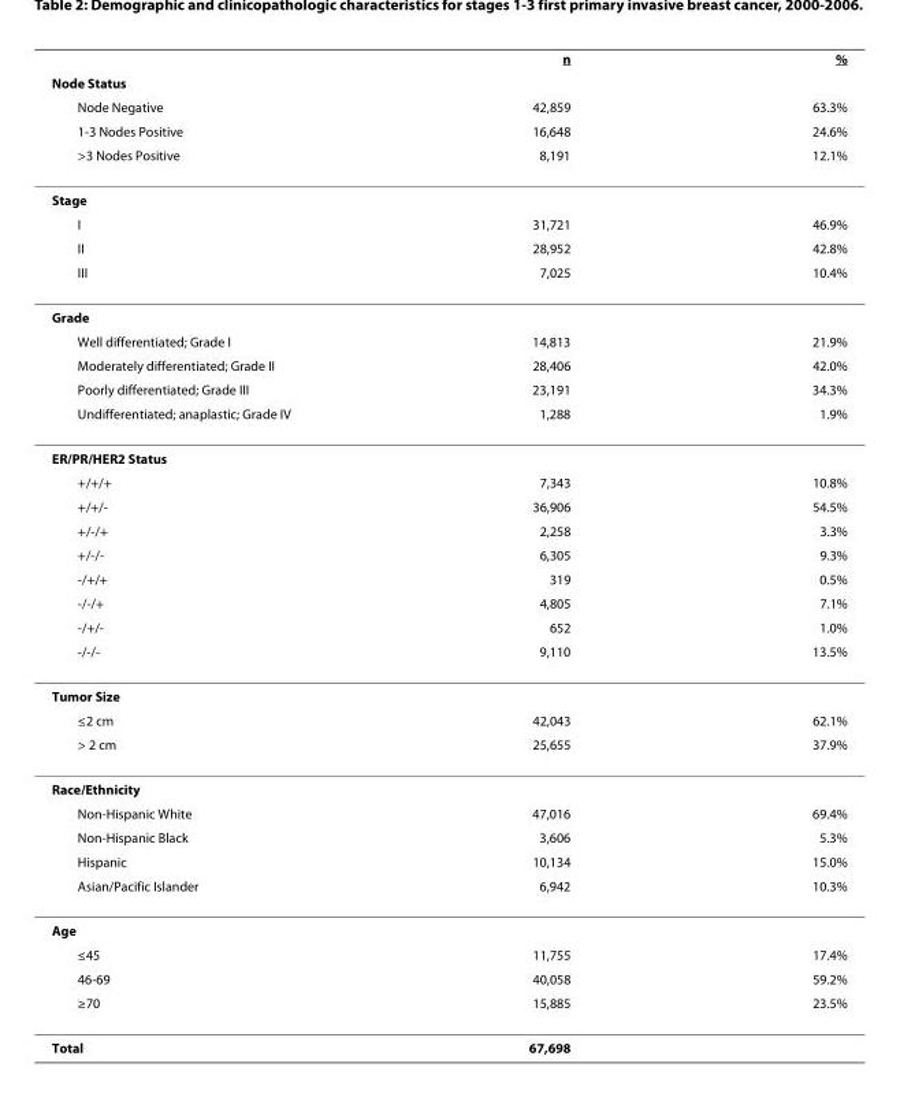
<table><thead><tr><td rowspan="5">Node Status Node Negative 1-3 Nodes Positive &gt;3 Nodes Positive</td><td rowspan="5">n 42,859 16,648 8,191</td><td rowspan="5">% 63.3% 24.6% 12.1%</td></tr><tr></tr><tr></tr><tr></tr><tr></tr></thead><tbody><tr><td colspan="3">Stage</td></tr><tr><td>I</td><td>31,721</td><td>46.9%</td></tr><tr><td>II</td><td>28,952</td><td>42.8%</td></tr><tr><td>III</td><td>7,025</td><td>10.4%</td></tr><tr><td colspan="3">Grade</td></tr><tr><td>Well differentiated; Grade I</td><td>14,813</td><td>21.9%</td></tr><tr><td>Moderately differentiated; Grade II</td><td>28,406</td><td>42.0%</td></tr><tr><td>Poorly differentiated; Grade III</td><td>23,191</td><td>34.3%</td></tr><tr><td>Undifferentiated; anaplastic; Grade IV</td><td>1,288</td><td>1.9%</td></tr><tr><td colspan="3">ER/PR/HER2 Status</td></tr><tr><td>+/+/+</td><td>7,343</td><td>10.8%</td></tr><tr><td>+/+/-</td><td>36,906</td><td>54.5%</td></tr><tr><td>+/-/+</td><td>2,258</td><td>3.3%</td></tr><tr><td>+/-/-</td><td>6,305</td><td>9.3%</td></tr><tr><td>-/+/+</td><td>319</td><td>0.5%</td></tr><tr><td>-/-/+</td><td>4,805</td><td>7.1%</td></tr><tr><td>-/+/-</td><td>652</td><td>1.0%</td></tr><tr><td>-/-/-</td><td>9,110</td><td>13.5%</td></tr><tr><td colspan="3">Tumor Size</td></tr><tr><td>≤2 cm</td><td>42,043</td><td>62.1%</td></tr><tr><td>&gt; 2 cm</td><td>25,655</td><td>37.9%</td></tr><tr><td colspan="3">Race/Ethnicity</td></tr><tr><td>Non-Hispanic White</td><td>47,016</td><td>69.4%</td></tr><tr><td>Non-Hispanic Black</td><td>3,606</td><td>5.3%</td></tr><tr><td>Hispanic</td><td>10,134</td><td>15.0%</td></tr><tr><td>Asian/Pacific Islander</td><td>6,942</td><td>10.3%</td></tr><tr><td colspan="3">Age</td></tr><tr><td>≤45</td><td>11,755</td><td>17.4%</td></tr><tr><td>46-69</td><td>40,058</td><td>59.2%</td></tr><tr><td>≥70</td><td>15,885</td><td>23.5%</td></tr><tr><td>Total</td><td>67,698</td><td></td></tr></tbody></table>